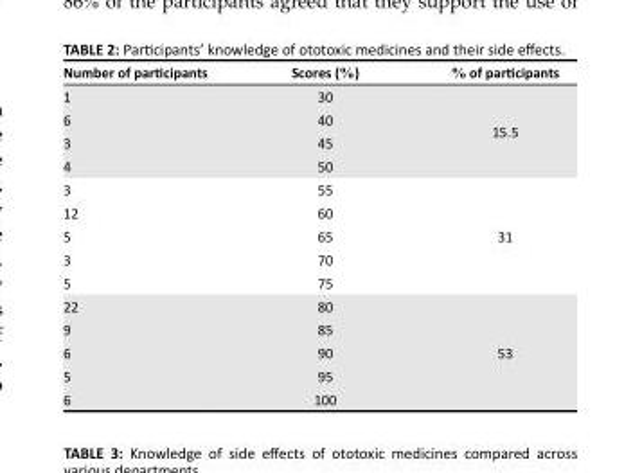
<table><thead><tr><td>Number of participants</td><td>Scores (%)</td><td>% of participants</td></tr></thead><tbody><tr><td>1</td><td>30</td><td rowspan="4">15.5</td></tr><tr><td>6</td><td>40</td></tr><tr><td>3</td><td>45</td></tr><tr><td>4</td><td>50</td></tr><tr><td>3</td><td>55</td><td rowspan="5">31</td></tr><tr><td>12</td><td>60</td></tr><tr><td>5</td><td>65</td></tr><tr><td>3</td><td>70</td></tr><tr><td>5</td><td>75</td></tr><tr><td>22</td><td>80</td><td rowspan="5">53</td></tr><tr><td>9</td><td>85</td></tr><tr><td>6</td><td>90</td></tr><tr><td>5</td><td>95</td></tr><tr><td>6</td><td>100</td></tr></tbody></table>